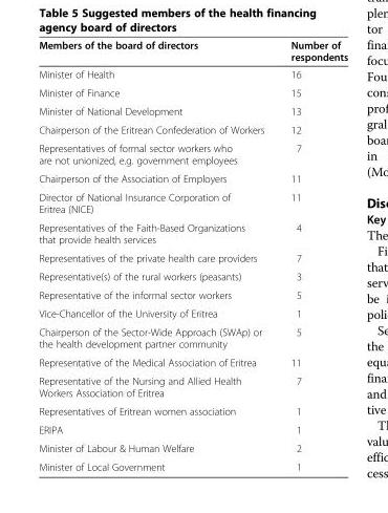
<table><thead><tr><td>Members of the board of directors</td><td>Number of respondents</td></tr></thead><tbody><tr><td>Minister of Health</td><td>16</td></tr><tr><td>Minister of Finance</td><td>15</td></tr><tr><td>Minister of National Development</td><td>13</td></tr><tr><td>Chairperson of the Eritrean Confederation of Workers</td><td>12</td></tr><tr><td>Representatives of formal sector workers who are not unionized, e.g. government employees</td><td>7</td></tr><tr><td>Chairperson of the Association of Employers</td><td>11</td></tr><tr><td>Director of National Insurance Corporation of Eritrea (NICE)</td><td>11</td></tr><tr><td>Representatives of the Faith-Based Organizations that provide health services</td><td>4</td></tr><tr><td>Representatives of the private health care providers</td><td>7</td></tr><tr><td>Representative(s) of the rural workers (peasants)</td><td>3</td></tr><tr><td>Representative of the informal sector workers</td><td>5</td></tr><tr><td>Vice-Chancellor of the University of Eritrea</td><td>1</td></tr><tr><td>Chairperson of the Sector-Wide Approach (SWAp) or the health development partner community</td><td>5</td></tr><tr><td>Representative of the Medical Association of Eritrea</td><td>11</td></tr><tr><td>Representative of the Nursing and Allied Health Workers Association of Eritrea</td><td>7</td></tr><tr><td>Representatives of Eritrean women association</td><td>1</td></tr><tr><td>ERIPA</td><td>1</td></tr><tr><td>Minister of Labour &amp; Human Welfare</td><td>2</td></tr><tr><td>Minister of Local Government</td><td>1</td></tr></tbody></table>